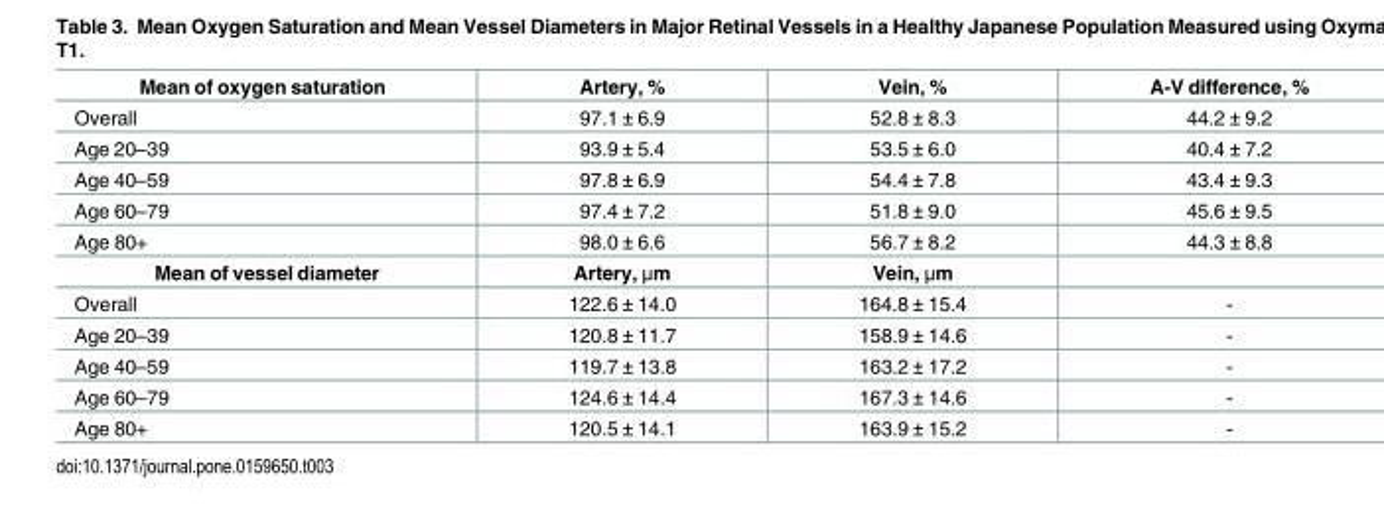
<table><tbody><tr><td>Mean of oxygen saturation</td><td>Artery, %</td><td>Vein, %</td><td>A-V difference, %</td></tr><tr><td>Overall</td><td>97.1 ± 6.9</td><td>52.8 ± 8.3</td><td>44.2 ± 9.2</td></tr><tr><td>Age 20–39</td><td>93.9 ± 5.4</td><td>53.5 ± 6.0</td><td>40.4 ± 7.2</td></tr><tr><td>Age 40–59</td><td>97.8 ± 6.9</td><td>54.4 ± 7.8</td><td>43.4 ± 9.3</td></tr><tr><td>Age 60–79</td><td>97.4 ± 7.2</td><td>51.8 ± 9.0</td><td>45.6 ± 9.5</td></tr><tr><td>Age 80+</td><td>98.0 ± 6.6</td><td>56.7 ± 8.2</td><td>44.3 ± 8.8</td></tr><tr><td>Mean of vessel diameter</td><td>Artery, μm</td><td>Vein, μm</td><td></td></tr><tr><td>Overall</td><td>122.6 ± 14.0</td><td>164.8 ± 15.4</td><td>-</td></tr><tr><td>Age 20–39</td><td>120.8 ± 11.7</td><td>158.9 ± 14.6</td><td>-</td></tr><tr><td>Age 40–59</td><td>119.7 ± 13.8</td><td>163.2 ± 17.2</td><td>-</td></tr><tr><td>Age 60–79</td><td>124.6 ± 14.4</td><td>167.3 ± 14.6</td><td>-</td></tr><tr><td>Age 80+</td><td>120.5 ± 14.1</td><td>163.9 ± 15.2</td><td>-</td></tr></tbody></table>